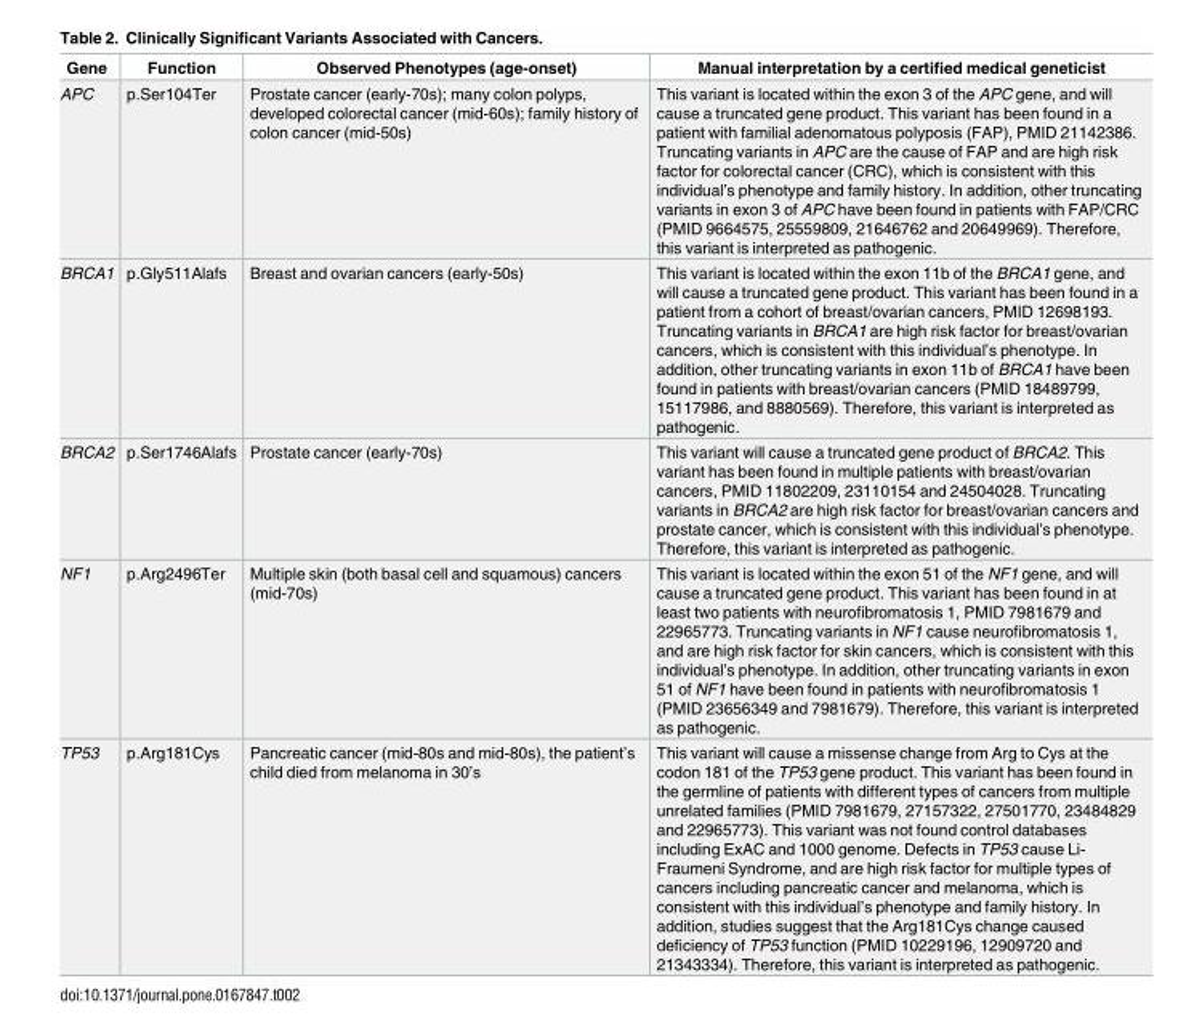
<table><thead><tr><td>Gene</td><td>Function</td><td>Observed Phenotypes (age-onset)</td><td>Manual interpretation by a certified medical geneticist</td></tr></thead><tbody><tr><td>APC</td><td>p.Ser104Ter</td><td>Prostate cancer (early-70s); many colon polyps, developed colorectal cancer (mid-60s); family history of colon cancer (mid-50s)</td><td>This variant is located within the exon 3 of the APC gene, and will cause a truncated gene product. This variant has been found in a patient with familial adenomatous polyposis (FAP), PMID 21142386. Truncating variants in APC are the cause of FAP and are high risk factor for colorectal cancer (CRC), which is consistent with this individual’s phenotype and family history. In addition, other truncating variants in exon 3 of APC have been found in patients with FAP/CRC (PMID 9664575, 25559809, 21646762 and 20649969). Therefore, this variant is interpreted as pathogenic.</td></tr><tr><td>BRCA1</td><td>p.Gly511Alafs</td><td>Breast and ovarian cancers (early-50s)</td><td>This variant is located within the exon 11b of the BRCA1 gene, and will cause a truncated gene product. This variant has been found in a patient from a cohort of breast/ovarian cancers, PMID 12698193. Truncating variants in BRCA1 are high risk factor for breast/ovarian cancers, which is consistent with this individual’s phenotype. In addition, other truncating variants in exon 11b of BRCA1 have been found in patients with breast/ovarian cancers (PMID 18489799, 15117986, and 8880569). Therefore, this variant is interpreted as pathogenic.</td></tr><tr><td>BRCA2</td><td>p.Ser1746Alafs</td><td>Prostate cancer (early-70s)</td><td>This variant will cause a truncated gene product of BRCA2. This variant has been found in multiple patients with breast/ovarian cancers, PMID 11802209, 23110154 and 24504028. Truncating variants in BRCA2 are high risk factor for breast/ovarian cancers and prostate cancer, which is consistent with this individual’s phenotype. Therefore, this variant is interpreted as pathogenic.</td></tr><tr><td>NF1</td><td>p.Arg2496Ter</td><td>Multiple skin (both basal cell and squamous) cancers (mid-70s)</td><td>This variant is located within the exon 51 of the NF1 gene, and will cause a truncated gene product. This variant has been found in at least two patients with neurofibromatosis 1, PMID 7981679 and 22965773. Truncating variants in NF1 cause neurofibromatosis 1, and are high risk factor for skin cancers, which is consistent with this individual’s phenotype. In addition, other truncating variants in exon 51 of NF1 have been found in patients with neurofibromatosis 1 (PMID 23656349 and 7981679). Therefore, this variant is interpreted as pathogenic.</td></tr><tr><td>TP53</td><td>p.Arg181Cys</td><td>Pancreatic cancer (mid-80s and mid-80s), the patient’s child died from melanoma in 30’s</td><td>This variant will cause a missense change from Arg to Cys at the codon 181 of the TP53 gene product. This variant has been found in the germline of patients with different types of cancers from multiple unrelated families (PMID 7981679, 27157322, 27501770, 23484829 and 22965773). This variant was not found control databases including ExAC and 1000 genome. Defects in TP53 cause Li- Fraumeni Syndrome, and are high risk factor for multiple types of cancers including pancreatic cancer and melanoma, which is consistent with this individual’s phenotype and family history. In addition, studies suggest that the Arg181Cys change caused deficiency of TP53 function (PMID 10229196, 12909720 and 21343334). Therefore, this variant is interpreted as pathogenic.</td></tr></tbody></table>